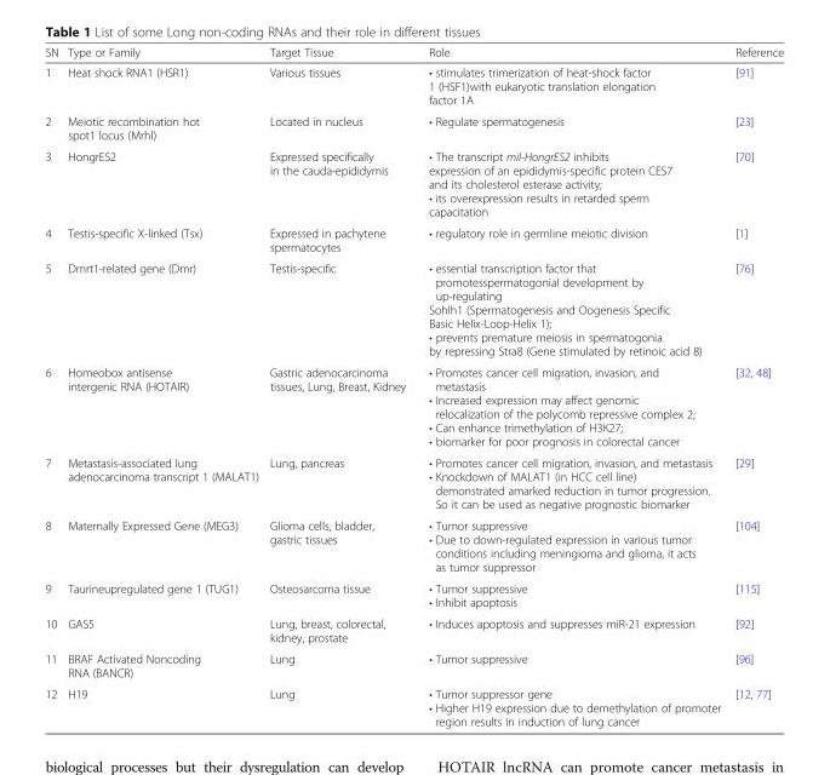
<table><thead><tr><td>SN</td><td>Type or Family</td><td>Target Tissue</td><td>Role</td><td>Reference</td></tr></thead><tbody><tr><td>1</td><td>Heat shock RNA1 (HSR1)</td><td>Various tissues</td><td>• stimulates trimerization of heat-shock factor 1 (HSF1)with eukaryotic translation elongation factor 1A</td><td>[91]</td></tr><tr><td>2</td><td>Meiotic recombination hot spot1 locus (Mrhl)</td><td>Located in nucleus</td><td>• Regulate spermatogenesis</td><td>[23]</td></tr><tr><td>3</td><td>HongrES2</td><td>Expressed specifically in the cauda-epididymis</td><td>• The transcript mil-HongrES2 inhibits expression of an epididymis-specific protein CES7 and its cholesterol esterase activity; • its overexpression results in retarded sperm capacitation</td><td>[70]</td></tr><tr><td>4</td><td>Testis-specific X-linked (Tsx)</td><td>Expressed in pachytene spermatocytes</td><td>• regulatory role in germline meiotic division</td><td>[1]</td></tr><tr><td>5</td><td>Dmrt1-related gene (Dmr)</td><td>Testis-specific</td><td>• essential transcription factor that promotesspermatogonial development by up-regulating Sohlh1 (Spermatogenesis and Oogenesis Specific Basic Helix-Loop-Helix 1); • prevents premature meiosis in spermatogonia by repressing Stra8 (Gene stimulated by retinoic acid 8)</td><td>[76]</td></tr><tr><td>6</td><td>Homeobox antisense intergenic RNA (HOTAIR)</td><td>Gastric adenocarcinoma tissues, Lung, Breast, Kidney</td><td>• Promotes cancer cell migration, invasion, and metastasis • Increased expression may affect genomic relocalization of the polycomb repressive complex 2; • Can enhance trimethylation of H3K27; • biomarker for poor prognosis in colorectal cancer</td><td>[32, 48]</td></tr><tr><td>7</td><td>Metastasis-associated lung adenocarcinoma transcript 1 (MALAT1)</td><td>Lung, pancreas</td><td>• Promotes cancer cell migration, invasion, and metastasis • Knockdown of MALAT1 (in HCC cell line) demonstrated amarked reduction in tumor progression. So it can be used as negative prognostic biomarker</td><td>[29]</td></tr><tr><td>8</td><td>Maternally Expressed Gene (MEG3)</td><td>Glioma cells, bladder, gastric tissues</td><td>• Tumor suppressive • Due to down-regulated expression in various tumor conditions including meningioma and glioma, it acts as tumor suppressor</td><td>[104]</td></tr><tr><td>9</td><td>Taurineupregulated gene 1 (TUG1)</td><td>Osteosarcoma tissue</td><td>• Tumor suppressive • Inhibit apoptosis</td><td>[115]</td></tr><tr><td>10</td><td>GAS5</td><td>Lung, breast, colorectal, kidney, prostate</td><td>• Induces apoptosis and suppresses miR-21 expression</td><td>[92]</td></tr><tr><td>11</td><td>BRAF Activated Noncoding RNA (BANCR)</td><td>Lung</td><td>• Tumor suppressive</td><td>[96]</td></tr><tr><td>12</td><td>H19</td><td>Lung</td><td>• Tumor suppressor gene • Higher H19 expression due to demethylation of promoter region results in induction of lung cancer</td><td>[12, 77]</td></tr></tbody></table>